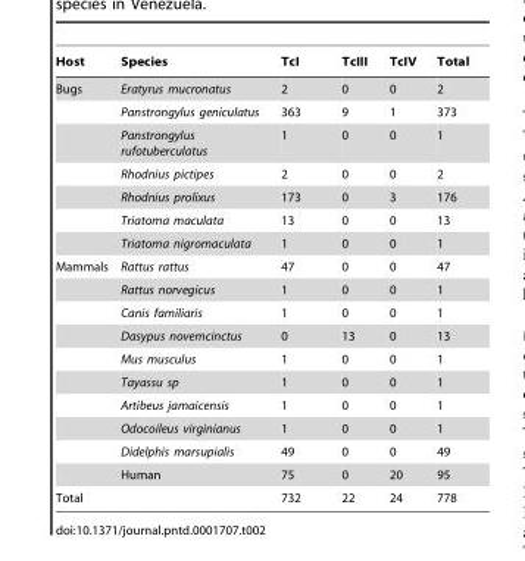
<table><thead><tr><td>Host</td><td>Species</td><td>TcI</td><td>TcIII</td><td>TcIV</td><td>Total</td></tr></thead><tbody><tr><td rowspan="7">Bugs</td><td>Eratyrus mucronatus</td><td>2</td><td>0</td><td>0</td><td>2</td></tr><tr><td>Panstrongylus geniculatus</td><td>363</td><td>9</td><td>1</td><td>373</td></tr><tr><td>Panstrongylus rufotuberculatus</td><td>1</td><td>0</td><td>0</td><td>1</td></tr><tr><td>Rhodnius pictipes</td><td>2</td><td>0</td><td>0</td><td>2</td></tr><tr><td>Rhodnius prolixus</td><td>173</td><td>0</td><td>3</td><td>176</td></tr><tr><td>Triatoma maculata</td><td>13</td><td>0</td><td>0</td><td>13</td></tr><tr><td>Triatoma nigromaculata</td><td>1</td><td>0</td><td>0</td><td>1</td></tr><tr><td rowspan="10">Mammals</td><td>Rattus rattus</td><td>47</td><td>0</td><td>0</td><td>47</td></tr><tr><td>Rattus norvegicus</td><td>1</td><td>0</td><td>0</td><td>1</td></tr><tr><td>Canis familiaris</td><td>1</td><td>0</td><td>0</td><td>1</td></tr><tr><td>Dasypus novemcinctus</td><td>0</td><td>13</td><td>0</td><td>13</td></tr><tr><td>Mus musculus</td><td>1</td><td>0</td><td>0</td><td>1</td></tr><tr><td>Tayassu sp</td><td>1</td><td>0</td><td>0</td><td>1</td></tr><tr><td>Artibeus jamaicensis</td><td>1</td><td>0</td><td>0</td><td>1</td></tr><tr><td>Odocoileus virginianus</td><td>1</td><td>0</td><td>0</td><td>1</td></tr><tr><td>Didelphis marsupialis</td><td>49</td><td>0</td><td>0</td><td>49</td></tr><tr><td>Human</td><td>75</td><td>0</td><td>20</td><td>95</td></tr><tr><td>Total</td><td></td><td>732</td><td>22</td><td>24</td><td>778</td></tr></tbody></table>